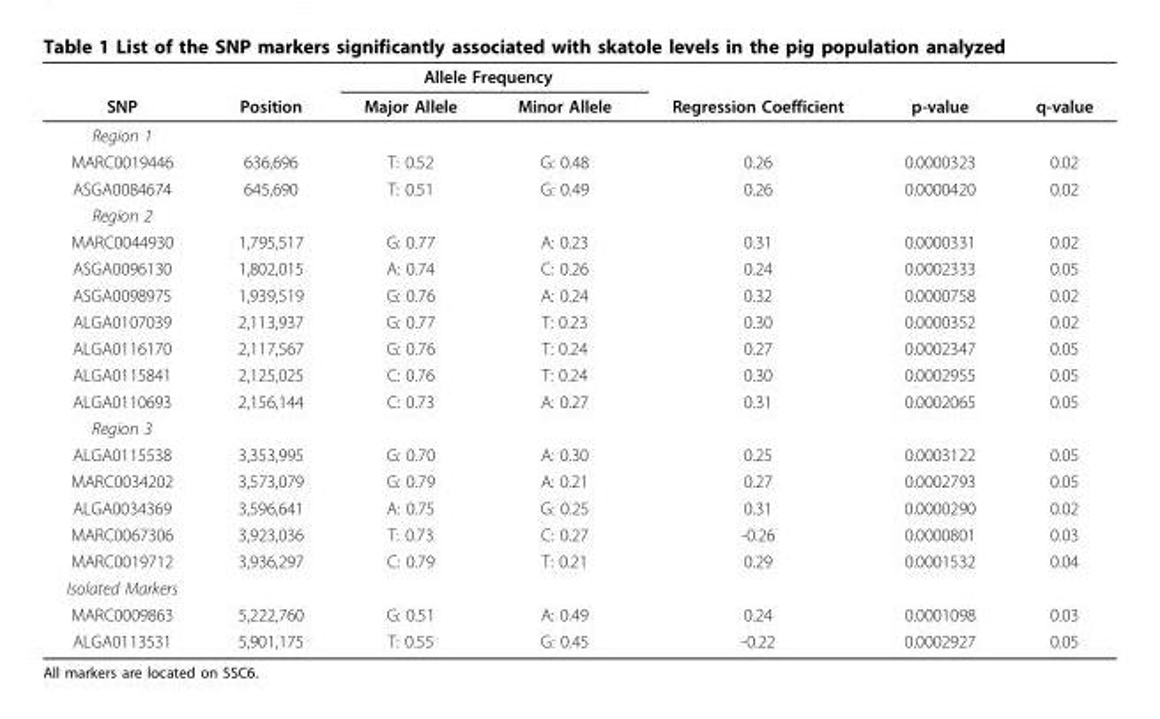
<table><thead><tr><td rowspan="2">SNP</td><td rowspan="2">Position</td><td colspan="2">Allele Frequency</td><td rowspan="2">Regression Coefficient</td><td rowspan="2">p-value</td><td rowspan="2">q-value</td></tr><tr><td>Major Allele</td><td>Minor Allele</td></tr></thead><tbody><tr><td colspan="7">Region 1</td></tr><tr><td>MARC0019446</td><td>636,696</td><td>T: 0.52</td><td>G: 0.48</td><td>0.26</td><td>0.0000323</td><td>0.02</td></tr><tr><td>ASGA0084674</td><td>645,690</td><td>T: 0.51</td><td>G: 0.49</td><td>0.26</td><td>0.0000420</td><td>0.02</td></tr><tr><td colspan="7">Region 2</td></tr><tr><td>MARC0044930</td><td>1,795,517</td><td>G: 0.77</td><td>A: 0.23</td><td>0.31</td><td>0.0000331</td><td>0.02</td></tr><tr><td>ASGA0096130</td><td>1,802,015</td><td>A: 0.74</td><td>C: 0.26</td><td>0.24</td><td>0.0002333</td><td>0.05</td></tr><tr><td>ASGA0098975</td><td>1,939,519</td><td>G: 0.76</td><td>A: 0.24</td><td>0.32</td><td>0.0000758</td><td>0.02</td></tr><tr><td>ALGA0107039</td><td>2,113,937</td><td>G: 0.77</td><td>T: 0.23</td><td>0.30</td><td>0.0000352</td><td>0.02</td></tr><tr><td>ALGA0116170</td><td>2,117,567</td><td>G: 0.76</td><td>T: 0.24</td><td>0.27</td><td>0.0002347</td><td>0.05</td></tr><tr><td>ALGA0115841</td><td>2,125,025</td><td>C: 0.76</td><td>T: 0.24</td><td>0.30</td><td>0.0002955</td><td>0.05</td></tr><tr><td>ALGA0110693</td><td>2,156,144</td><td>C: 0.73</td><td>A: 0.27</td><td>0.31</td><td>0.0002065</td><td>0.05</td></tr><tr><td colspan="7">Region 3</td></tr><tr><td>ALGA0115538</td><td>3,353,995</td><td>G: 0.70</td><td>A: 0.30</td><td>0.25</td><td>0.0003122</td><td>0.05</td></tr><tr><td>MARC0034202</td><td>3,573,079</td><td>G: 0.79</td><td>A: 0.21</td><td>0.27</td><td>0.0002793</td><td>0.05</td></tr><tr><td>ALGA0034369</td><td>3,596,641</td><td>A: 0.75</td><td>G: 0.25</td><td>0.31</td><td>0.0000290</td><td>0.02</td></tr><tr><td>MARC0067306</td><td>3,923,036</td><td>T: 0.73</td><td>C: 0.27</td><td>-0.26</td><td>0.0000801</td><td>0.03</td></tr><tr><td>MARC0019712</td><td>3,936,297</td><td>C: 0.79</td><td>T: 0.21</td><td>0.29</td><td>0.0001532</td><td>0.04</td></tr><tr><td colspan="7">Isolated Markers</td></tr><tr><td>MARC0009863</td><td>5,222,760</td><td>G: 0.51</td><td>A: 0.49</td><td>0.24</td><td>0.0001098</td><td>0.03</td></tr><tr><td>ALGA0113531</td><td>5,901,175</td><td>T: 0.55</td><td>G: 0.45</td><td>-0.22</td><td>0.0002927</td><td>0.05</td></tr></tbody></table>